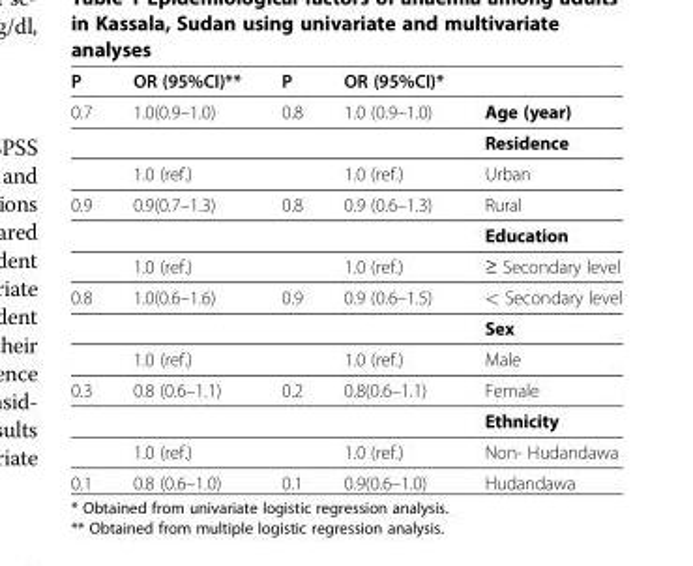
<table><thead><tr><td>P</td><td>OR (95%CI)**</td><td>P</td><td>OR (95%CI)*</td><td></td></tr></thead><tbody><tr><td rowspan="3">0.7</td><td>1.0(0.9–1.0)</td><td>0.8</td><td>1.0 (0.9–1.0)</td><td>Age (year)</td></tr><tr><td></td><td></td><td></td><td>Residence</td></tr><tr><td>1.0 (ref.)</td><td></td><td>1.0 (ref.)</td><td>Urban</td></tr><tr><td rowspan="3">0.9</td><td>0.9(0.7–1.3)</td><td>0.8</td><td>0.9 (0.6–1.3)</td><td>Rural</td></tr><tr><td></td><td></td><td></td><td>Education</td></tr><tr><td>1.0 (ref.)</td><td></td><td>1.0 (ref.)</td><td>≥ Secondary level</td></tr><tr><td rowspan="3">0.8</td><td>1.0(0.6–1.6)</td><td>0.9</td><td>0.9 (0.6–1.5)</td><td>&lt; Secondary level</td></tr><tr><td></td><td></td><td></td><td>Sex</td></tr><tr><td>1.0 (ref.)</td><td></td><td>1.0 (ref.)</td><td>Male</td></tr><tr><td rowspan="3">0.3</td><td>0.8 (0.6–1.1)</td><td>0.2</td><td>0.8(0.6–1.1)</td><td>Female</td></tr><tr><td></td><td></td><td></td><td>Ethnicity</td></tr><tr><td>1.0 (ref.)</td><td></td><td>1.0 (ref.)</td><td>Non- Hudandawa</td></tr><tr><td>0.1</td><td>0.8 (0.6–1.0)</td><td>0.1</td><td>0.9(0.6–1.0)</td><td>Hudandawa</td></tr></tbody></table>